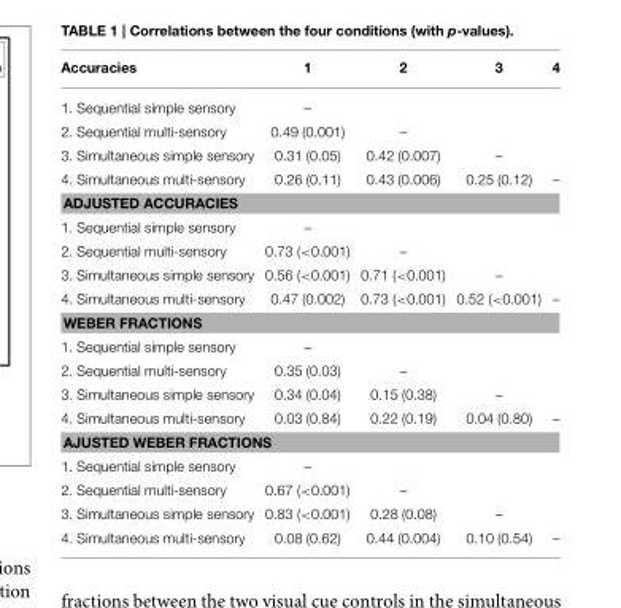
<table><thead><tr><td>Accuracies</td><td>1</td><td>2</td><td>3</td><td>4</td></tr></thead><tbody><tr><td>1. Sequential simple sensory</td><td>–</td><td></td><td></td><td></td></tr><tr><td>2. Sequential multi-sensory</td><td>0.49 (0.001)</td><td>–</td><td></td><td></td></tr><tr><td>3. Simultaneous simple sensory</td><td>0.31 (0.05)</td><td>0.42 (0.007)</td><td>–</td><td></td></tr><tr><td>4. Simultaneous multi-sensory</td><td>0.26 (0.11)</td><td>0.43 (0.006)</td><td>0.25 (0.12)</td><td>–</td></tr><tr><td colspan="5">ADJUSTED ACCURACIES</td></tr><tr><td>1. Sequential simple sensory</td><td>–</td><td></td><td></td><td></td></tr><tr><td>2. Sequential multi-sensory</td><td>0.73 (&lt;0.001)</td><td>–</td><td></td><td></td></tr><tr><td>3. Simultaneous simple sensory</td><td>0.56 (&lt;0.001)</td><td>0.71 (&lt;0.001)</td><td>–</td><td></td></tr><tr><td>4. Simultaneous multi-sensory</td><td>0.47 (0.002)</td><td>0.73 (&lt;0.001)</td><td>0.52 (&lt;0.001)</td><td>–</td></tr><tr><td colspan="5">WEBER FRACTIONS</td></tr><tr><td>1. Sequential simple sensory</td><td>–</td><td></td><td></td><td></td></tr><tr><td>2. Sequential multi-sensory</td><td>0.35 (0.03)</td><td>–</td><td></td><td></td></tr><tr><td>3. Simultaneous simple sensory</td><td>0.34 (0.04)</td><td>0.15 (0.38)</td><td>–</td><td></td></tr><tr><td>4. Simultaneous multi-sensory</td><td>0.03 (0.84)</td><td>0.22 (0.19)</td><td>0.04 (0.80)</td><td>–</td></tr><tr><td colspan="5">AJUSTED WEBER FRACTIONS</td></tr><tr><td>1. Sequential simple sensory</td><td>–</td><td></td><td></td><td></td></tr><tr><td>2. Sequential multi-sensory</td><td>0.67 (&lt;0.001)</td><td>–</td><td></td><td></td></tr><tr><td>3. Simultaneous simple sensory</td><td>0.83 (&lt;0.001)</td><td>0.28 (0.08)</td><td>–</td><td></td></tr><tr><td>4. Simultaneous multi-sensory</td><td>0.08 (0.62)</td><td>0.44 (0.004)</td><td>0.10 (0.54)</td><td>–</td></tr></tbody></table>